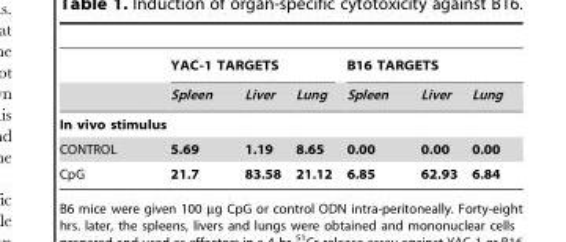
<table><thead><tr><td rowspan="2"></td><td colspan="3">YAC-1 TARGETS</td><td colspan="3">B16 TARGETS</td></tr><tr><td>Spleen</td><td>Liver</td><td>Lung</td><td>Spleen</td><td>Liver</td><td>Lung</td></tr></thead><tbody><tr><td colspan="7">In vivo stimulus</td></tr><tr><td>CONTROL</td><td>5.69</td><td>1.19</td><td>8.65</td><td>0.00</td><td>0.00</td><td>0.00</td></tr><tr><td>CpG</td><td>21.7</td><td>83.58</td><td>21.12</td><td>6.85</td><td>62.93</td><td>6.84</td></tr></tbody></table>